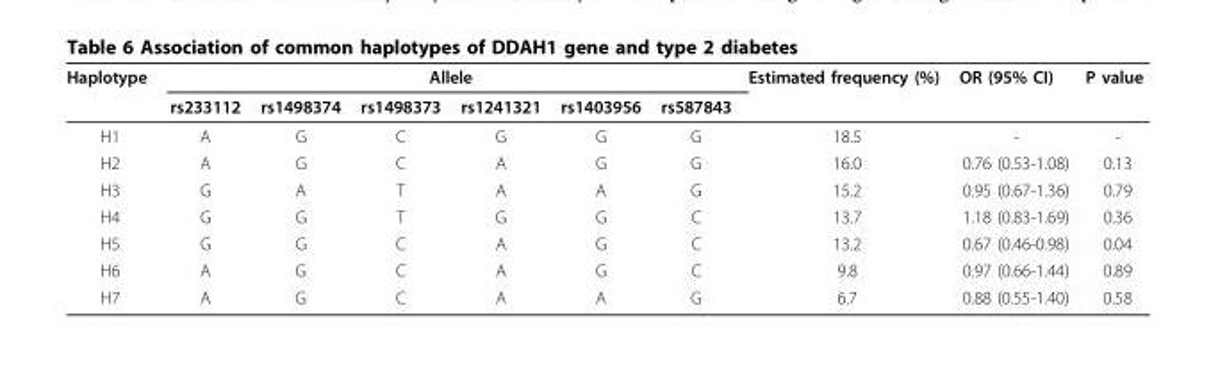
<table><thead><tr><td rowspan="2">Haplotype</td><td colspan="6">Allele</td><td rowspan="2">Estimated frequency (%)</td><td rowspan="2">OR (95% CI)</td><td rowspan="2">P value</td></tr><tr><td>rs233112</td><td>rs1498374</td><td>rs1498373</td><td>rs1241321</td><td>rs1403956</td><td>rs587843</td></tr></thead><tbody><tr><td>H1</td><td>A</td><td>G</td><td>C</td><td>G</td><td>G</td><td>G</td><td>18.5</td><td>-</td><td>-</td></tr><tr><td>H2</td><td>A</td><td>G</td><td>C</td><td>A</td><td>G</td><td>G</td><td>16.0</td><td>0.76 (0.53-1.08)</td><td>0.13</td></tr><tr><td>H3</td><td>G</td><td>A</td><td>T</td><td>A</td><td>A</td><td>G</td><td>15.2</td><td>0.95 (0.67-1.36)</td><td>0.79</td></tr><tr><td>H4</td><td>G</td><td>G</td><td>T</td><td>G</td><td>G</td><td>C</td><td>13.7</td><td>1.18 (0.83-1.69)</td><td>0.36</td></tr><tr><td>H5</td><td>G</td><td>G</td><td>C</td><td>A</td><td>G</td><td>C</td><td>13.2</td><td>0.67 (0.46-0.98)</td><td>0.04</td></tr><tr><td>H6</td><td>A</td><td>G</td><td>C</td><td>A</td><td>G</td><td>C</td><td>9.8</td><td>0.97 (0.66-1.44)</td><td>0.89</td></tr><tr><td>H7</td><td>A</td><td>G</td><td>C</td><td>A</td><td>A</td><td>G</td><td>6.7</td><td>0.88 (0.55-1.40)</td><td>0.58</td></tr></tbody></table>